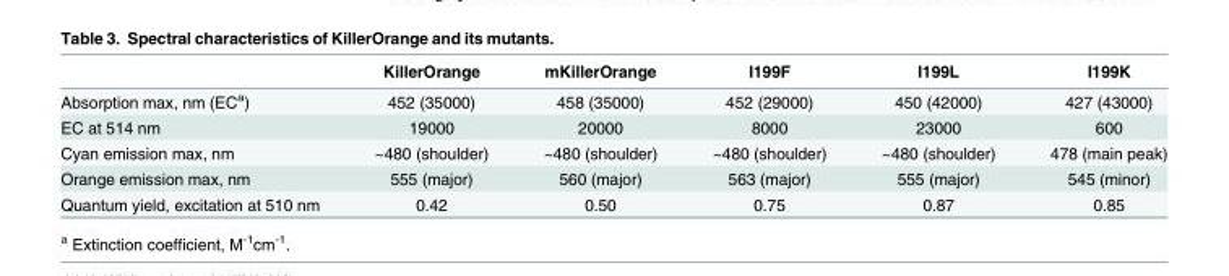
<table><thead><tr><td></td><td>KillerOrange</td><td>mKillerOrange</td><td>I199F</td><td>I199L</td><td>I199K</td></tr></thead><tbody><tr><td>Absorption max, nm (EC<sup>a</sup>)</td><td>452 (35000)</td><td>458 (35000)</td><td>452 (29000)</td><td>450 (42000)</td><td>427 (43000)</td></tr><tr><td>EC at 514 nm</td><td>19000</td><td>20000</td><td>8000</td><td>23000</td><td>600</td></tr><tr><td>Cyan emission max, nm</td><td>~480 (shoulder)</td><td>~480 (shoulder)</td><td>~480 (shoulder)</td><td>~480 (shoulder)</td><td>478 (main peak)</td></tr><tr><td>Orange emission max, nm</td><td>555 (major)</td><td>560 (major)</td><td>563 (major)</td><td>555 (major)</td><td>545 (minor)</td></tr><tr><td>Quantum yield, excitation at 510 nm</td><td>0.42</td><td>0.50</td><td>0.75</td><td>0.87</td><td>0.85</td></tr></tbody></table>